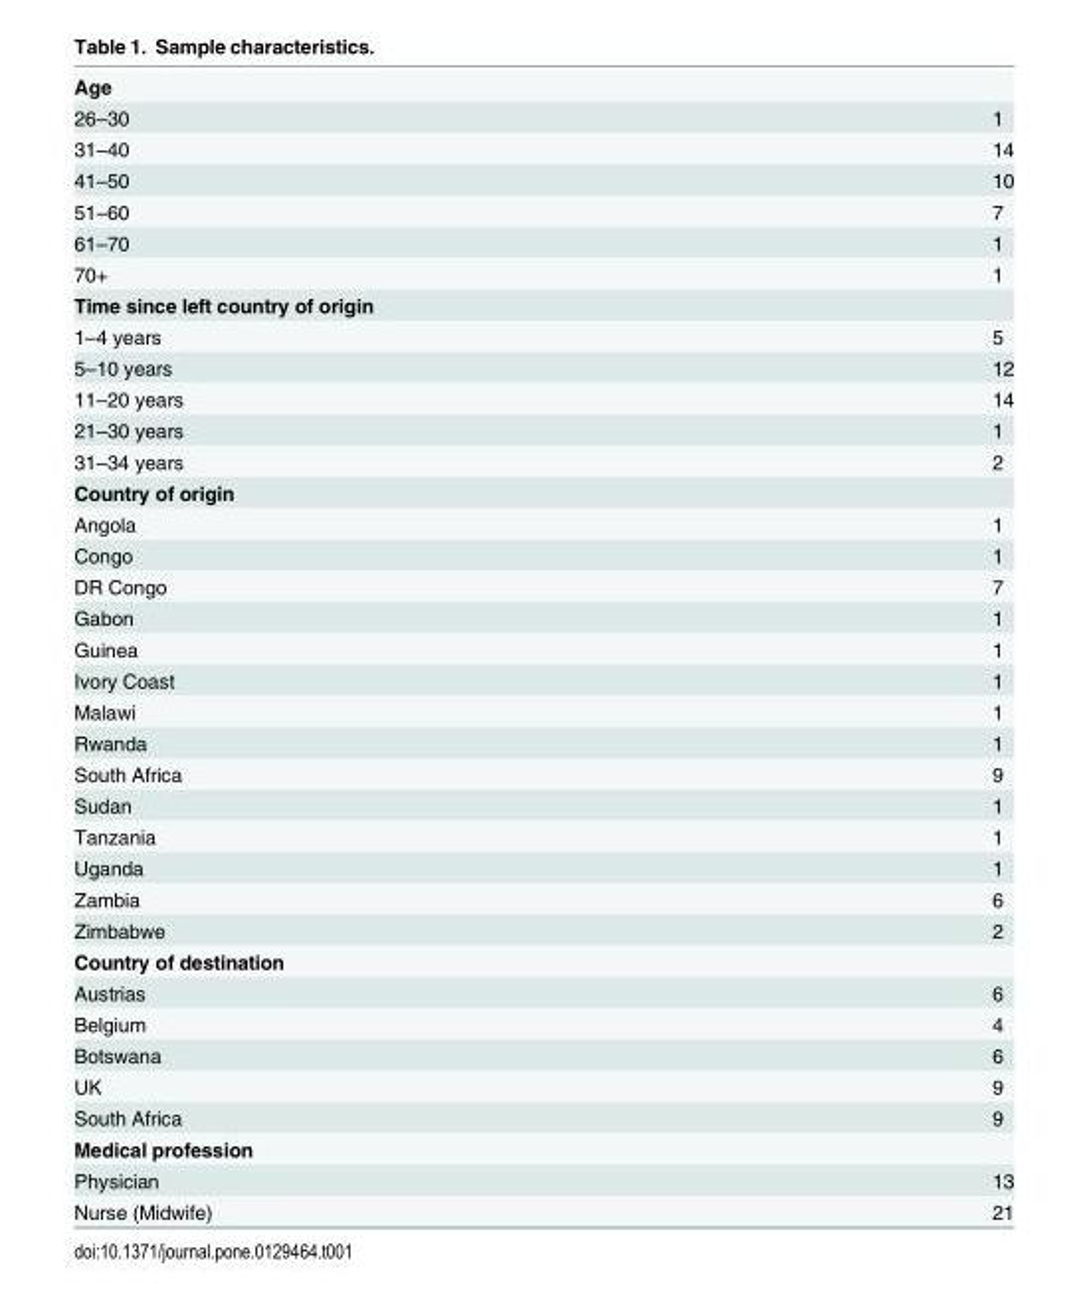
<table><tbody><tr><td colspan="2">Age</td></tr><tr><td>26–30</td><td>1</td></tr><tr><td>31–40</td><td>14</td></tr><tr><td>41–50</td><td>10</td></tr><tr><td>51–60</td><td>7</td></tr><tr><td>61–70</td><td>1</td></tr><tr><td>70+</td><td>1</td></tr><tr><td colspan="2">Time since left country of origin</td></tr><tr><td>1–4 years</td><td>5</td></tr><tr><td>5–10 years</td><td>12</td></tr><tr><td>11–20 years</td><td>14</td></tr><tr><td>21–30 years</td><td>1</td></tr><tr><td>31–34 years</td><td>2</td></tr><tr><td colspan="2">Country of origin</td></tr><tr><td>Angola</td><td>1</td></tr><tr><td>Congo</td><td>1</td></tr><tr><td>DR Congo</td><td>7</td></tr><tr><td>Gabon</td><td>1</td></tr><tr><td>Guinea</td><td>1</td></tr><tr><td>Ivory Coast</td><td>1</td></tr><tr><td>Malawi</td><td>1</td></tr><tr><td>Rwanda</td><td>1</td></tr><tr><td>South Africa</td><td>9</td></tr><tr><td>Sudan</td><td>1</td></tr><tr><td>Tanzania</td><td>1</td></tr><tr><td>Uganda</td><td>1</td></tr><tr><td>Zambia</td><td>6</td></tr><tr><td>Zimbabwe</td><td>2</td></tr><tr><td colspan="2">Country of destination</td></tr><tr><td>Austrias</td><td>6</td></tr><tr><td>Belgium</td><td>4</td></tr><tr><td>Botswana</td><td>6</td></tr><tr><td>UK</td><td>9</td></tr><tr><td>South Africa</td><td>9</td></tr><tr><td colspan="2">Medical profession</td></tr><tr><td>Physician</td><td>13</td></tr><tr><td>Nurse (Midwife)</td><td>21</td></tr></tbody></table>